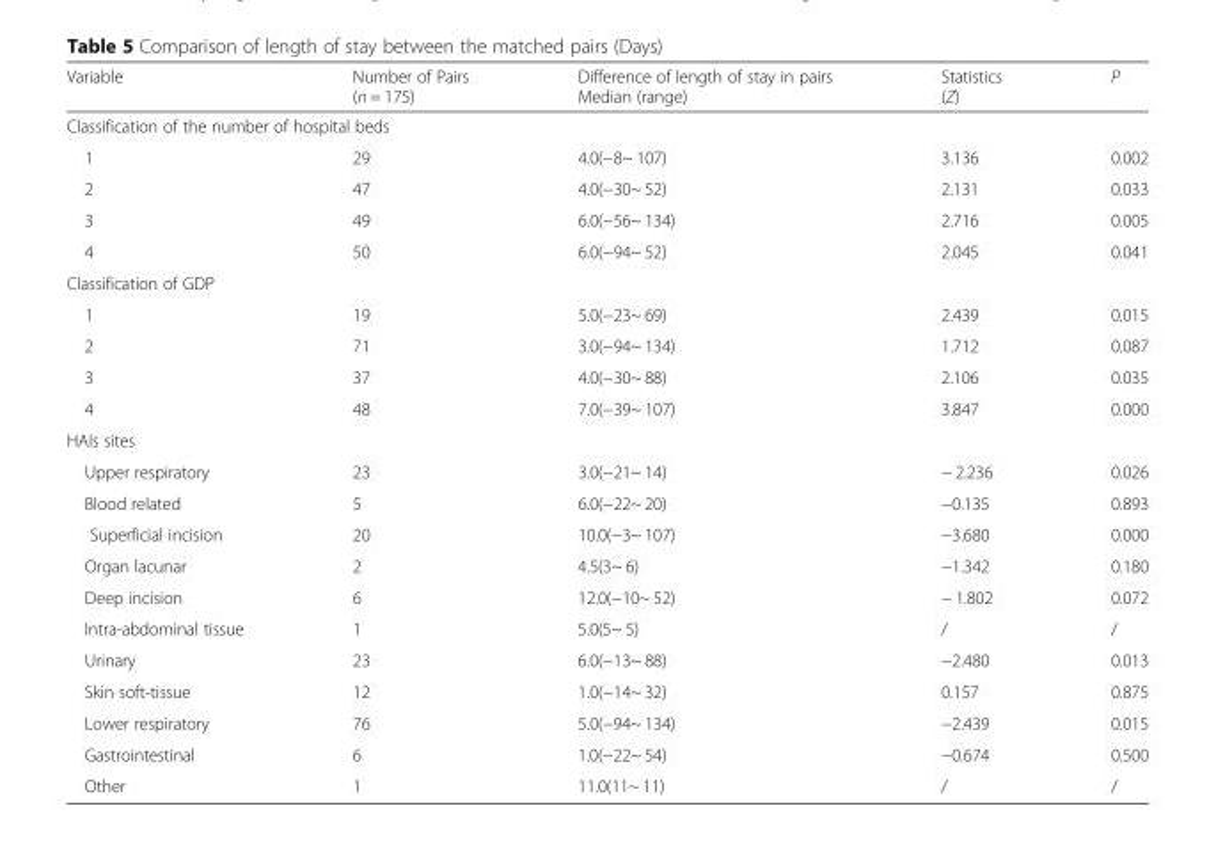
<table><thead><tr><td>Variable</td><td>Number of Pairs (n = 175)</td><td>Difference of length of stay in pairs Median (range)</td><td>Statistics (Z)</td><td>P</td></tr></thead><tbody><tr><td colspan="5">Classification of the number of hospital beds</td></tr><tr><td>1</td><td>29</td><td>4.0(−8~ 107)</td><td>3.136</td><td>0.002</td></tr><tr><td>2</td><td>47</td><td>4.0(−30~ 52)</td><td>2.131</td><td>0.033</td></tr><tr><td>3</td><td>49</td><td>6.0(−56~ 134)</td><td>2.716</td><td>0.005</td></tr><tr><td>4</td><td>50</td><td>6.0(−94~ 52)</td><td>2.045</td><td>0.041</td></tr><tr><td colspan="5">Classification of GDP</td></tr><tr><td>1</td><td>19</td><td>5.0(−23~ 69)</td><td>2.439</td><td>0.015</td></tr><tr><td>2</td><td>71</td><td>3.0(−94~ 134)</td><td>1.712</td><td>0.087</td></tr><tr><td>3</td><td>37</td><td>4.0(−30~ 88)</td><td>2.106</td><td>0.035</td></tr><tr><td>4</td><td>48</td><td>7.0(−39~ 107)</td><td>3.847</td><td>0.000</td></tr><tr><td colspan="5">HAIs sites</td></tr><tr><td>Upper respiratory</td><td>23</td><td>3.0(−21~ 14)</td><td>− 2.236</td><td>0.026</td></tr><tr><td>Blood related</td><td>5</td><td>6.0(−22~ 20)</td><td>−0.135</td><td>0.893</td></tr><tr><td>Superficial incision</td><td>20</td><td>10.0(−3~ 107)</td><td>−3.680</td><td>0.000</td></tr><tr><td>Organ lacunar</td><td>2</td><td>4.5(3~ 6)</td><td>−1.342</td><td>0.180</td></tr><tr><td>Deep incision</td><td>6</td><td>12.0(−10~ 52)</td><td>− 1.802</td><td>0.072</td></tr><tr><td>Intra-abdominal tissue</td><td>1</td><td>5.0(5~ 5)</td><td>/</td><td>/</td></tr><tr><td>Urinary</td><td>23</td><td>6.0(−13~ 88)</td><td>−2.480</td><td>0.013</td></tr><tr><td>Skin soft-tissue</td><td>12</td><td>1.0(−14~ 32)</td><td>0.157</td><td>0.875</td></tr><tr><td>Lower respiratory</td><td>76</td><td>5.0(−94~ 134)</td><td>−2.439</td><td>0.015</td></tr><tr><td>Gastrointestinal</td><td>6</td><td>1.0(−22~ 54)</td><td>−0.674</td><td>0.500</td></tr><tr><td>Other</td><td>1</td><td>11.0(11~ 11)</td><td>/</td><td>/</td></tr></tbody></table>